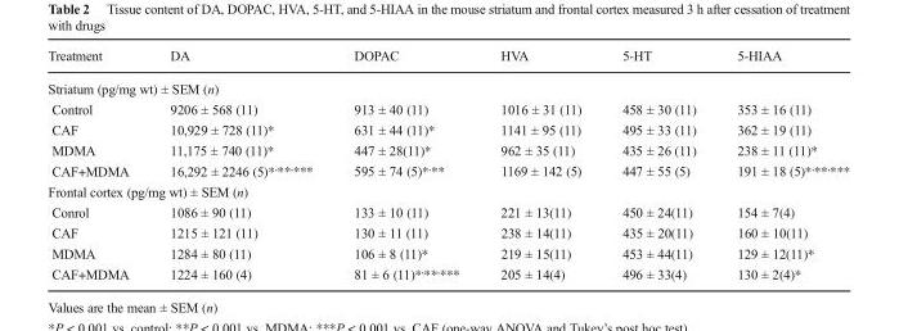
<table><thead><tr><td>Treatment</td><td>DA</td><td>DOPAC</td><td>HVA</td><td>5-HT</td><td>5-HIAA</td></tr></thead><tbody><tr><td colspan="6">Striatum (pg/mg wt) ± SEM (n)</td></tr><tr><td>Control</td><td>9206 ± 568 (11)</td><td>913 ± 40 (11)</td><td>1016 ± 31 (11)</td><td>458 ± 30 (11)</td><td>353 ± 16 (11)</td></tr><tr><td>CAF</td><td>10,929 ± 728 (11)*</td><td>631 ± 44 (11)*</td><td>1141 ± 95 (11)</td><td>495 ± 33 (11)</td><td>362 ± 19 (11)</td></tr><tr><td>MDMA</td><td>11,175 ± 740 (11)*</td><td>447 ± 28(11)*</td><td>962 ± 35 (11)</td><td>435 ± 26 (11)</td><td>238 ± 11 (11)*</td></tr><tr><td>CAF+MDMA</td><td>16,292 ± 2246 (5)*<sup>,</sup>**<sup>,</sup>***</td><td>595 ± 74 (5)*<sup>,</sup>**</td><td>1169 ± 142 (5)</td><td>447 ± 55 (5)</td><td>191 ± 18 (5)*<sup>,</sup>**<sup>,</sup>***</td></tr><tr><td colspan="6">Frontal cortex (pg/mg wt) ± SEM (n)</td></tr><tr><td>Conrol</td><td>1086 ± 90 (11)</td><td>133 ± 10 (11)</td><td>221 ± 13(11)</td><td>450 ± 24(11)</td><td>154 ± 7(4)</td></tr><tr><td>CAF</td><td>1215 ± 121 (11)</td><td>130 ± 11 (11)</td><td>238 ± 14(11)</td><td>435 ± 20(11)</td><td>160 ± 10(11)</td></tr><tr><td>MDMA</td><td>1284 ± 80 (11)</td><td>106 ± 8 (11)*</td><td>219 ± 15(11)</td><td>453 ± 44(11)</td><td>129 ± 12(11)*</td></tr><tr><td>CAF+MDMA</td><td>1224 ± 160 (4)</td><td>81 ± 6 (11)*<sup>,</sup>**<sup>,</sup>***</td><td>205 ± 14(4)</td><td>496 ± 33(4)</td><td>130 ± 2(4)*</td></tr></tbody></table>